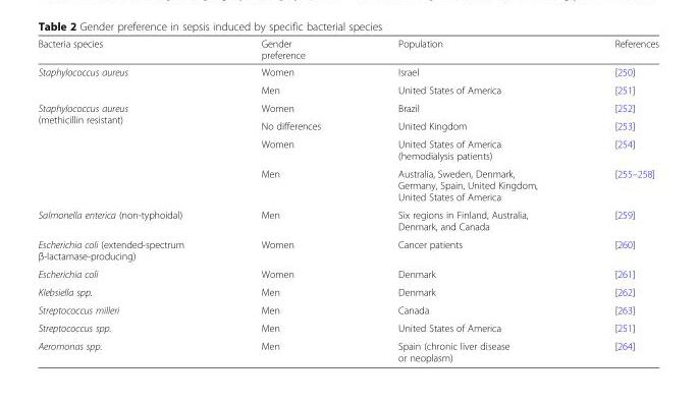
<table><thead><tr><td>Bacteria species</td><td>Gender preference</td><td>Population</td><td>References</td></tr></thead><tbody><tr><td rowspan="2">Staphylococcus aureus</td><td>Women</td><td>Israel</td><td>[250]</td></tr><tr><td>Men</td><td>United States of America</td><td>[251]</td></tr><tr><td rowspan="4">Staphylococcus aureus (methicillin resistant)</td><td>Women</td><td>Brazil</td><td>[252]</td></tr><tr><td>No differences</td><td>United Kingdom</td><td>[253]</td></tr><tr><td>Women</td><td>United States of America (hemodialysis patients)</td><td>[254]</td></tr><tr><td>Men</td><td>Australia, Sweden, Denmark, Germany, Spain, United Kingdom, United States of America</td><td>[255–258]</td></tr><tr><td>Salmonella enterica (non-typhoidal)</td><td>Men</td><td>Six regions in Finland, Australia, Denmark, and Canada</td><td>[259]</td></tr><tr><td>Escherichia coli (extended-spectrum β-lactamase-producing)</td><td>Women</td><td>Cancer patients</td><td>[260]</td></tr><tr><td>Escherichia coli</td><td>Women</td><td>Denmark</td><td>[261]</td></tr><tr><td>Klebsiella spp.</td><td>Men</td><td>Denmark</td><td>[262]</td></tr><tr><td>Streptococcus milleri</td><td>Men</td><td>Canada</td><td>[263]</td></tr><tr><td>Streptococcus spp.</td><td>Men</td><td>United States of America</td><td>[251]</td></tr><tr><td>Aeromonas spp.</td><td>Men</td><td>Spain (chronic liver disease or neoplasm)</td><td>[264]</td></tr></tbody></table>